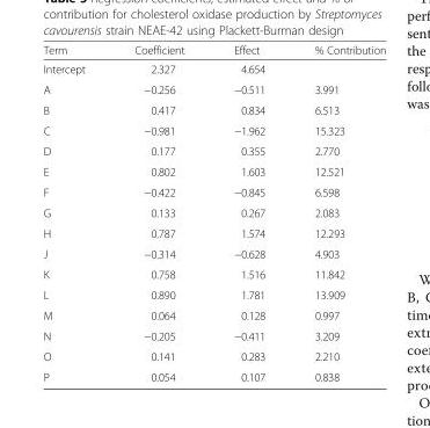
<table><thead><tr><td>Term</td><td>Coefficient</td><td>Effect</td><td>% Contribution</td></tr></thead><tbody><tr><td>Intercept</td><td>2.327</td><td>4.654</td><td></td></tr><tr><td>A</td><td>−0.256</td><td>−0.511</td><td>3.991</td></tr><tr><td>B</td><td>0.417</td><td>0.834</td><td>6.513</td></tr><tr><td>C</td><td>−0.981</td><td>−1.962</td><td>15.323</td></tr><tr><td>D</td><td>0.177</td><td>0.355</td><td>2.770</td></tr><tr><td>E</td><td>0.802</td><td>1.603</td><td>12.521</td></tr><tr><td>F</td><td>−0.422</td><td>−0.845</td><td>6.598</td></tr><tr><td>G</td><td>0.133</td><td>0.267</td><td>2.083</td></tr><tr><td>H</td><td>0.787</td><td>1.574</td><td>12.293</td></tr><tr><td>J</td><td>−0.314</td><td>−0.628</td><td>4.903</td></tr><tr><td>K</td><td>0.758</td><td>1.516</td><td>11.842</td></tr><tr><td>L</td><td>0.890</td><td>1.781</td><td>13.909</td></tr><tr><td>M</td><td>0.064</td><td>0.128</td><td>0.997</td></tr><tr><td>N</td><td>−0.205</td><td>−0.411</td><td>3.209</td></tr><tr><td>O</td><td>0.141</td><td>0.283</td><td>2.210</td></tr><tr><td>P</td><td>0.054</td><td>0.107</td><td>0.838</td></tr></tbody></table>